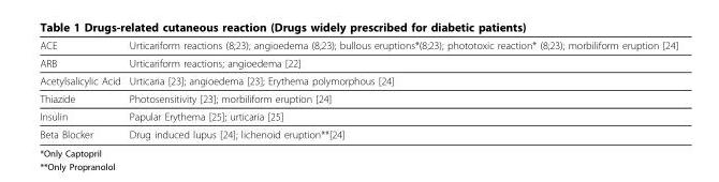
<table><thead><tr><td>ACE</td><td>Urticariform reactions (8;23); angioedema (8;23); bullous eruptions*(8;23); phototoxic reaction* (8;23); morbiliform eruption [24]</td></tr></thead><tbody><tr><td>ARB</td><td>Urticariform reactions; angioedema [22]</td></tr><tr><td>Acetylsalicylic Acid</td><td>Urticaria [23]; angioedema [23]; Erythema polymorphous [24]</td></tr><tr><td>Thiazide</td><td>Photosensitivity [23]; morbiliform eruption [24]</td></tr><tr><td>Insulin</td><td>Papular Erythema [25]; urticaria [25]</td></tr><tr><td>Beta Blocker</td><td>Drug induced lupus [24]; lichenoid eruption**[24]</td></tr></tbody></table>